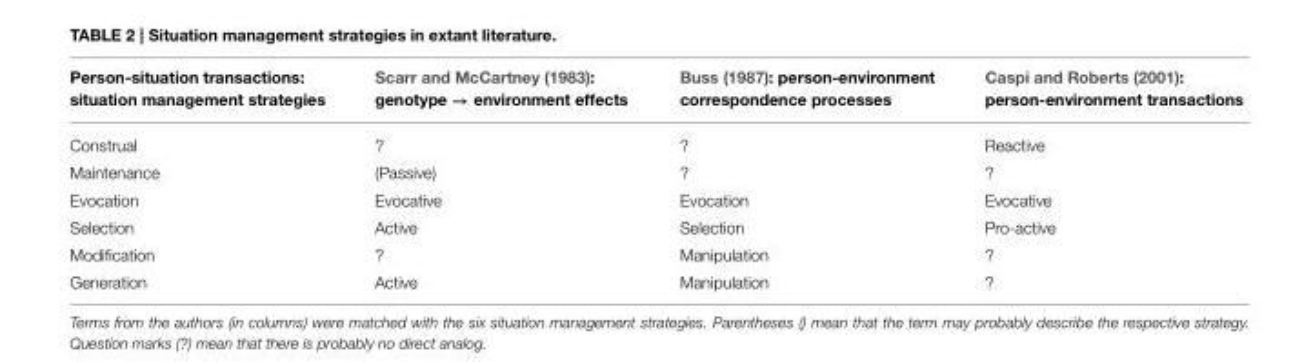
<table><thead><tr><td>Person-situation transactions: situation management strategies</td><td>Scarr and McCartney (1983): genotype → environment effects</td><td>Buss (1987): person-environment correspondence processes</td><td>Caspi and Roberts (2001): person-environment transactions</td></tr></thead><tbody><tr><td>Construal</td><td>?</td><td>?</td><td>Reactive</td></tr><tr><td>Maintenance</td><td>(Passive)</td><td>?</td><td>?</td></tr><tr><td>Evocation</td><td>Evocative</td><td>Evocation</td><td>Evocative</td></tr><tr><td>Selection</td><td>Active</td><td>Selection</td><td>Pro-active</td></tr><tr><td>Modification</td><td>?</td><td>Manipulation</td><td>?</td></tr><tr><td>Generation</td><td>Active</td><td>Manipulation</td><td>?</td></tr></tbody></table>